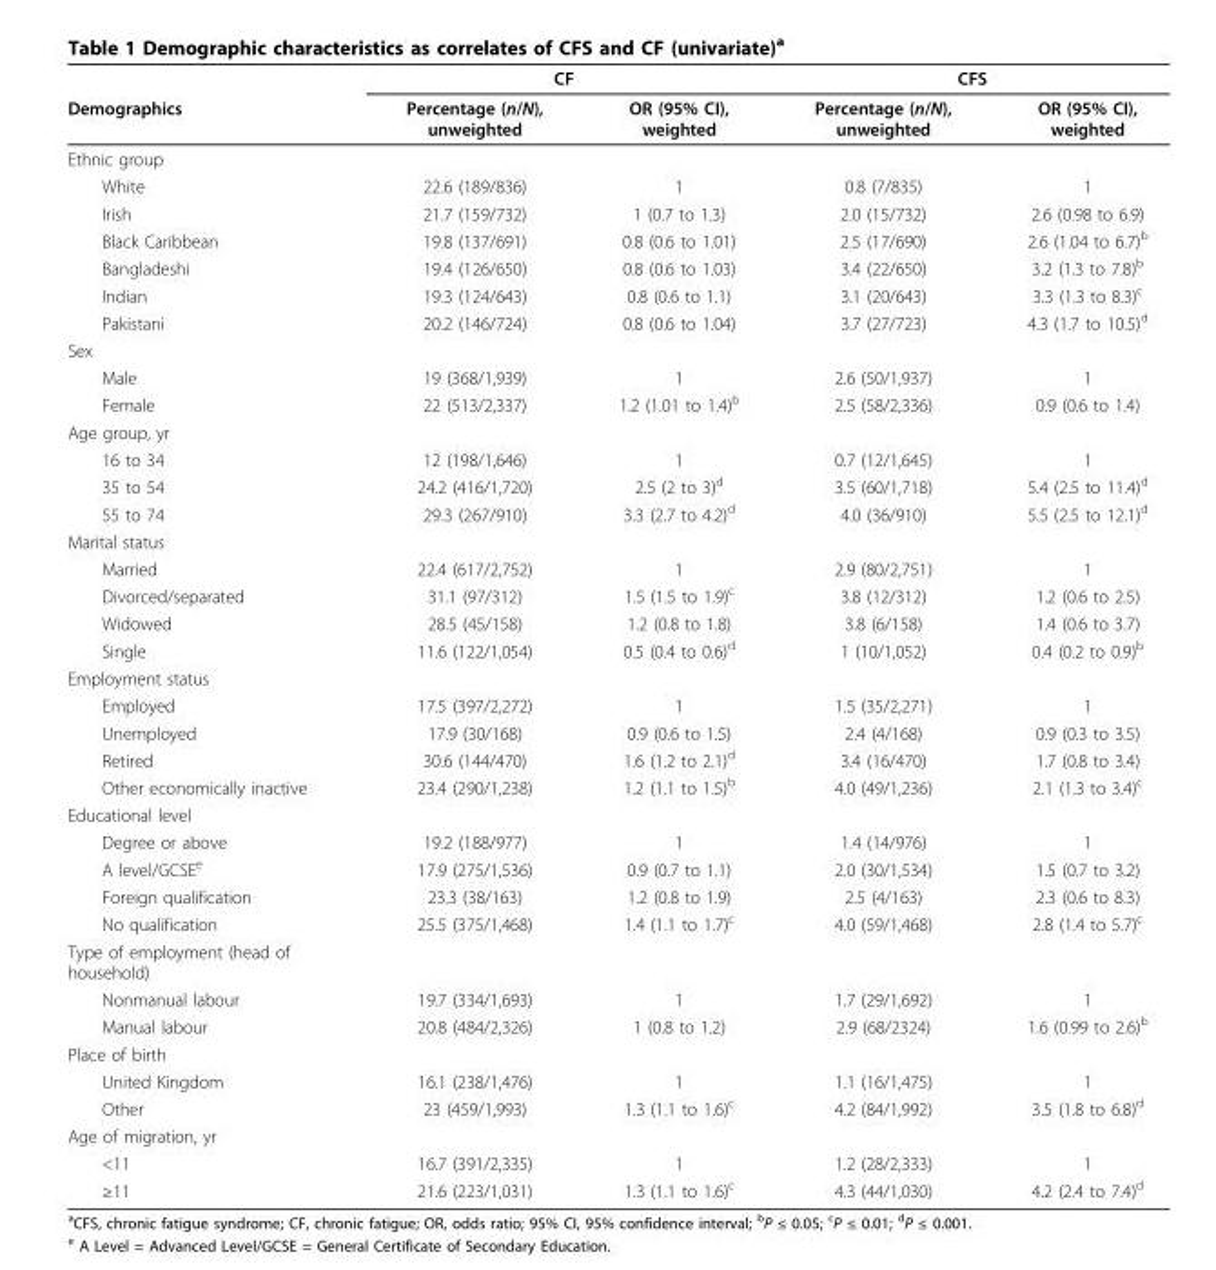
<table><thead><tr><td rowspan="2">Demographics</td><td colspan="2">CF</td><td colspan="2">CFS</td></tr><tr><td>Percentage (n/N), unweighted</td><td>OR (95% CI), weighted</td><td>Percentage (n/N), unweighted</td><td>OR (95% CI), weighted</td></tr></thead><tbody><tr><td colspan="5">Ethnic group</td></tr><tr><td>White</td><td>22.6 (189/836)</td><td>1</td><td>0.8 (7/835)</td><td>1</td></tr><tr><td>Irish</td><td>21.7 (159/732)</td><td>1 (0.7 to 1.3)</td><td>2.0 (15/732)</td><td>2.6 (0.98 to 6.9)</td></tr><tr><td>Black Caribbean</td><td>19.8 (137/691)</td><td>0.8 (0.6 to 1.01)</td><td>2.5 (17/690)</td><td>2.6 (1.04 to 6.7)<sup>b</sup></td></tr><tr><td>Bangladeshi</td><td>19.4 (126/650)</td><td>0.8 (0.6 to 1.03)</td><td>3.4 (22/650)</td><td>3.2 (1.3 to 7.8)<sup>b</sup></td></tr><tr><td>Indian</td><td>19.3 (124/643)</td><td>0.8 (0.6 to 1.1)</td><td>3.1 (20/643)</td><td>3.3 (1.3 to 8.3)<sup>c</sup></td></tr><tr><td>Pakistani</td><td>20.2 (146/724)</td><td>0.8 (0.6 to 1.04)</td><td>3.7 (27/723)</td><td>4.3 (1.7 to 10.5)<sup>d</sup></td></tr><tr><td colspan="5">Sex</td></tr><tr><td>Male</td><td>19 (368/1,939)</td><td>1</td><td>2.6 (50/1,937)</td><td>1</td></tr><tr><td>Female</td><td>22 (513/2,337)</td><td>1.2 (1.01 to 1.4)<sup>b</sup></td><td>2.5 (58/2,336)</td><td>0.9 (0.6 to 1.4)</td></tr><tr><td colspan="5">Age group, yr</td></tr><tr><td>16 to 34</td><td>12 (198/1,646)</td><td>1</td><td>0.7 (12/1,645)</td><td>1</td></tr><tr><td>35 to 54</td><td>24.2 (416/1,720)</td><td>2.5 (2 to 3)<sup>d</sup></td><td>3.5 (60/1,718)</td><td>5.4 (2.5 to 11.4)<sup>d</sup></td></tr><tr><td>55 to 74</td><td>29.3 (267/910)</td><td>3.3 (2.7 to 4.2)<sup>d</sup></td><td>4.0 (36/910)</td><td>5.5 (2.5 to 12.1)<sup>d</sup></td></tr><tr><td colspan="5">Marital status</td></tr><tr><td>Married</td><td>22.4 (617/2,752)</td><td>1</td><td>2.9 (80/2,751)</td><td>1</td></tr><tr><td>Divorced/separated</td><td>31.1 (97/312)</td><td>1.5 (1.5 to 1.9)<sup>c</sup></td><td>3.8 (12/312)</td><td>1.2 (0.6 to 2.5)</td></tr><tr><td>Widowed</td><td>28.5 (45/158)</td><td>1.2 (0.8 to 1.8)</td><td>3.8 (6/158)</td><td>1.4 (0.6 to 3.7)</td></tr><tr><td>Single</td><td>11.6 (122/1,054)</td><td>0.5 (0.4 to 0.6)<sup>d</sup></td><td>1 (10/1,052)</td><td>0.4 (0.2 to 0.9)<sup>b</sup></td></tr><tr><td colspan="5">Employment status</td></tr><tr><td>Employed</td><td>17.5 (397/2,272)</td><td>1</td><td>1.5 (35/2,271)</td><td>1</td></tr><tr><td>Unemployed</td><td>17.9 (30/168)</td><td>0.9 (0.6 to 1.5)</td><td>2.4 (4/168)</td><td>0.9 (0.3 to 3.5)</td></tr><tr><td>Retired</td><td>30.6 (144/470)</td><td>1.6 (1.2 to 2.1)<sup>d</sup></td><td>3.4 (16/470)</td><td>1.7 (0.8 to 3.4)</td></tr><tr><td>Other economically inactive</td><td>23.4 (290/1,238)</td><td>1.2 (1.1 to 1.5)<sup>b</sup></td><td>4.0 (49/1,236)</td><td>2.1 (1.3 to 3.4)<sup>c</sup></td></tr><tr><td colspan="5">Educational level</td></tr><tr><td>Degree or above</td><td>19.2 (188/977)</td><td>1</td><td>1.4 (14/976)</td><td>1</td></tr><tr><td>A level/GCSE<sup>e</sup></td><td>17.9 (275/1,536)</td><td>0.9 (0.7 to 1.1)</td><td>2.0 (30/1,534)</td><td>1.5 (0.7 to 3.2)</td></tr><tr><td>Foreign qualification</td><td>23.3 (38/163)</td><td>1.2 (0.8 to 1.9)</td><td>2.5 (4/163)</td><td>2.3 (0.6 to 8.3)</td></tr><tr><td>No qualification</td><td>25.5 (375/1,468)</td><td>1.4 (1.1 to 1.7)<sup>c</sup></td><td>4.0 (59/1,468)</td><td>2.8 (1.4 to 5.7)<sup>c</sup></td></tr><tr><td colspan="5">Type of employment (head of household)</td></tr><tr><td>Nonmanual labour</td><td>19.7 (334/1,693)</td><td>1</td><td>1.7 (29/1,692)</td><td>1</td></tr><tr><td>Manual labour</td><td>20.8 (484/2,326)</td><td>1 (0.8 to 1.2)</td><td>2.9 (68/2324)</td><td>1.6 (0.99 to 2.6)<sup>b</sup></td></tr><tr><td colspan="5">Place of birth</td></tr><tr><td>United Kingdom</td><td>16.1 (238/1,476)</td><td>1</td><td>1.1 (16/1,475)</td><td>1</td></tr><tr><td>Other</td><td>23 (459/1,993)</td><td>1.3 (1.1 to 1.6)<sup>c</sup></td><td>4.2 (84/1,992)</td><td>3.5 (1.8 to 6.8)<sup>d</sup></td></tr><tr><td colspan="5">Age of migration, yr</td></tr><tr><td>&lt;11</td><td>16.7 (391/2,335)</td><td>1</td><td>1.2 (28/2,333)</td><td>1</td></tr><tr><td>≥11</td><td>21.6 (223/1,031)</td><td>1.3 (1.1 to 1.6)<sup>c</sup></td><td>4.3 (44/1,030)</td><td>4.2 (2.4 to 7.4)<sup>d</sup></td></tr></tbody></table>